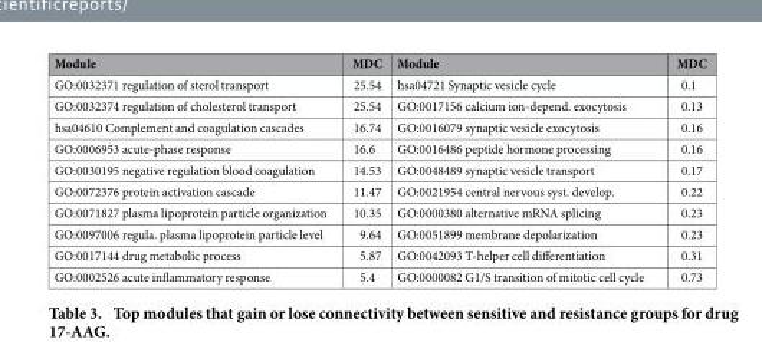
<table><thead><tr><td>Module</td><td>MDC</td><td>Module</td><td>MDC</td></tr></thead><tbody><tr><td>GO:0032371 regulation of sterol transport</td><td>25.54</td><td>hsa04721 Synaptic vesicle cycle</td><td>0.1</td></tr><tr><td>GO:0032374 regulation of cholesterol transport</td><td>25.54</td><td>GO:0017156 calcium ion-depend. exocytosis</td><td>0.13</td></tr><tr><td>hsa04610 Complement and coagulation cascades</td><td>16.74</td><td>GO:0016079 synaptic vesicle exocytosis</td><td>0.16</td></tr><tr><td>GO:0006953 acute-phase response</td><td>16.6</td><td>GO:0016486 peptide hormone processing</td><td>0.16</td></tr><tr><td>GO:0030195 negative regulation blood coagulation</td><td>14.53</td><td>GO:0048489 synaptic vesicle transport</td><td>0.17</td></tr><tr><td>GO:0072376 protein activation cascade</td><td>11.47</td><td>GO:0021954 central nervous syst. develop.</td><td>0.22</td></tr><tr><td>GO:0071827 plasma lipoprotein particle organization</td><td>10.35</td><td>GO:0000380 alternative mRNA splicing</td><td>0.23</td></tr><tr><td>GO:0097006 regula. plasma lipoprotein particle level</td><td>9.64</td><td>GO:0051899 membrane depolarization</td><td>0.23</td></tr><tr><td>GO:0017144 drug metabolic process</td><td>5.87</td><td>GO:0042093 T-helper cell differentiation</td><td>0.31</td></tr><tr><td>GO:0002526 acute inflammatory response</td><td>5.4</td><td>GO:0000082 G1/S transition of mitotic cell cycle</td><td>0.73</td></tr></tbody></table>